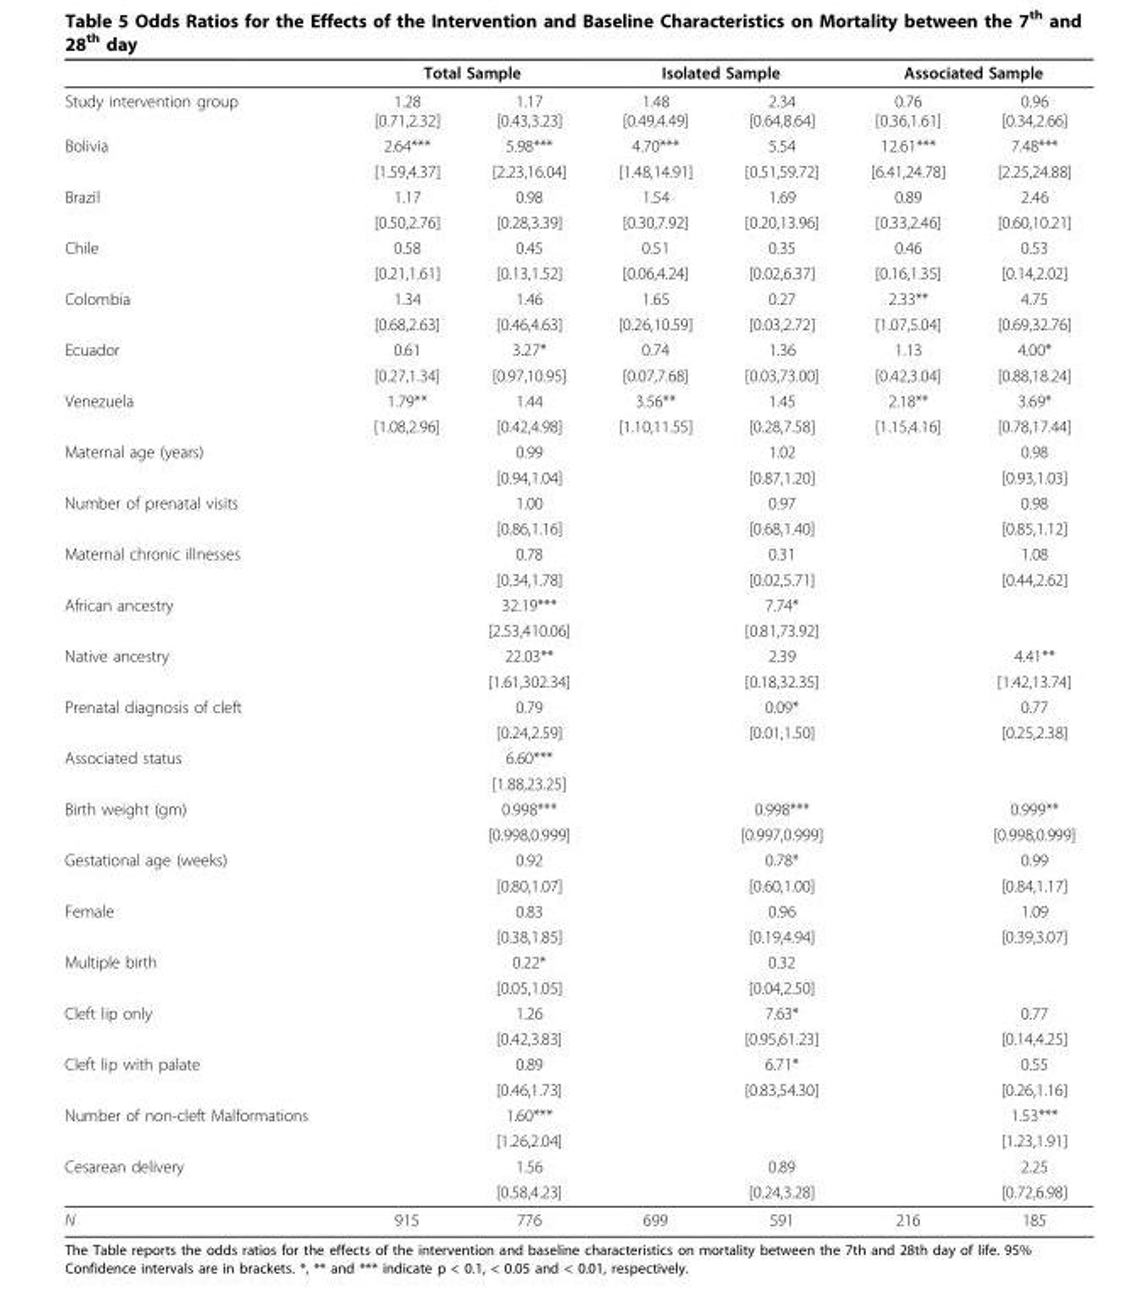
<table><thead><tr><td rowspan="2">Study intervention group</td><td colspan="2">Total Sample</td><td colspan="2">Isolated Sample</td><td colspan="2">Associated Sample</td></tr><tr><td>1.28 [0.71,2.32]</td><td>1.17 [0.43,3.23]</td><td>1.48 [0.49,4.49]</td><td>2.34 [0.64,8.64]</td><td>0.76 [0.36,1.61]</td><td>0.96 [0.34,2.66]</td></tr></thead><tbody><tr><td rowspan="2">Bolivia</td><td>2.64***</td><td>5.98***</td><td>4.70***</td><td>5.54</td><td>12.61***</td><td>7.48***</td></tr><tr><td>[1.59,4.37]</td><td>[2.23,16.04]</td><td>[1.48,14.91]</td><td>[0.51,59.72]</td><td>[6.41,24.78]</td><td>[2.25,24.88]</td></tr><tr><td rowspan="2">Brazil</td><td>1.17</td><td>0.98</td><td>1.54</td><td>1.69</td><td>0.89</td><td>2.46</td></tr><tr><td>[0.50,2.76]</td><td>[0.28,3.39]</td><td>[0.30,7.92]</td><td>[0.20,13.96]</td><td>[0.33,2.46]</td><td>[0.60,10.21]</td></tr><tr><td rowspan="2">Chile</td><td>0.58</td><td>0.45</td><td>0.51</td><td>0.35</td><td>0.46</td><td>0.53</td></tr><tr><td>[0.21,1.61]</td><td>[0.13,1.52]</td><td>[0.06,4.24]</td><td>[0.02,6.37]</td><td>[0.16,1.35]</td><td>[0.14,2.02]</td></tr><tr><td rowspan="2">Colombia</td><td>1.34</td><td>1.46</td><td>1.65</td><td>0.27</td><td>2.33**</td><td>4.75</td></tr><tr><td>[0.68,2.63]</td><td>[0.46,4.63]</td><td>[0.26,10.59]</td><td>[0.03,2.72]</td><td>[1.07,5.04]</td><td>[0.69,32.76]</td></tr><tr><td rowspan="2">Ecuador</td><td>0.61</td><td>3.27*</td><td>0.74</td><td>1.36</td><td>1.13</td><td>4.00*</td></tr><tr><td>[0.27,1.34]</td><td>[0.97,10.95]</td><td>[0.07,7.68]</td><td>[0.03,73.00]</td><td>[0.42,3.04]</td><td>[0.88,18.24]</td></tr><tr><td rowspan="2">Venezuela</td><td>1.79**</td><td>1.44</td><td>3.56**</td><td>1.45</td><td>2.18**</td><td>3.69*</td></tr><tr><td>[1.08,2.96]</td><td>[0.42,4.98]</td><td>[1.10,11.55]</td><td>[0.28,7.58]</td><td>[1.15,4.16]</td><td>[0.78,17.44]</td></tr><tr><td rowspan="2">Maternal age (years)</td><td></td><td>0.99</td><td></td><td>1.02</td><td></td><td>0.98</td></tr><tr><td></td><td>[0.94,1.04]</td><td></td><td>[0.87,1.20]</td><td></td><td>[0.93,1.03]</td></tr><tr><td rowspan="2">Number of prenatal visits</td><td></td><td>1.00</td><td></td><td>0.97</td><td></td><td>0.98</td></tr><tr><td></td><td>[0.86,1.16]</td><td></td><td>[0.68,1.40]</td><td></td><td>[0.85,1.12]</td></tr><tr><td rowspan="2">Maternal chronic illnesses</td><td></td><td>0.78</td><td></td><td>0.31</td><td></td><td>1.08</td></tr><tr><td></td><td>[0.34,1.78]</td><td></td><td>[0.02,5.71]</td><td></td><td>[0.44,2.62]</td></tr><tr><td rowspan="2">African ancestry</td><td></td><td>32.19***</td><td></td><td>7.74*</td><td></td><td></td></tr><tr><td></td><td>[2.53,410.06]</td><td></td><td>[0.81,73.92]</td><td></td><td></td></tr><tr><td rowspan="2">Native ancestry</td><td></td><td>22.03**</td><td></td><td>2.39</td><td></td><td>4.41**</td></tr><tr><td></td><td>[1.61,302.34]</td><td></td><td>[0.18,32.35]</td><td></td><td>[1.42,13.74]</td></tr><tr><td rowspan="2">Prenatal diagnosis of cleft</td><td></td><td>0.79</td><td></td><td>0.09*</td><td></td><td>0.77</td></tr><tr><td></td><td>[0.24,2.59]</td><td></td><td>[0.01,1.50]</td><td></td><td>[0.25,2.38]</td></tr><tr><td rowspan="2">Associated status</td><td></td><td>6.60***</td><td></td><td></td><td></td><td></td></tr><tr><td></td><td>[1.88,23.25]</td><td></td><td></td><td></td><td></td></tr><tr><td rowspan="2">Birth weight (gm)</td><td></td><td>0.998***</td><td></td><td>0.998***</td><td></td><td>0.999**</td></tr><tr><td></td><td>[0.998,0.999]</td><td></td><td>[0.997,0.999]</td><td></td><td>[0.998,0.999]</td></tr><tr><td rowspan="2">Gestational age (weeks)</td><td></td><td>0.92</td><td></td><td>0.78*</td><td></td><td>0.99</td></tr><tr><td></td><td>[0.80,1.07]</td><td></td><td>[0.60,1.00]</td><td></td><td>[0.84,1.17]</td></tr><tr><td rowspan="2">Female</td><td></td><td>0.83</td><td></td><td>0.96</td><td></td><td>1.09</td></tr><tr><td></td><td>[0.38,1.85]</td><td></td><td>[0.19,4.94]</td><td></td><td>[0.39,3.07]</td></tr><tr><td rowspan="2">Multiple birth</td><td></td><td>0.22*</td><td></td><td>0.32</td><td></td><td></td></tr><tr><td></td><td>[0.05,1.05]</td><td></td><td>[0.04,2.50]</td><td></td><td></td></tr><tr><td rowspan="2">Cleft lip only</td><td></td><td>1.26</td><td></td><td>7.63*</td><td></td><td>0.77</td></tr><tr><td></td><td>[0.42,3.83]</td><td></td><td>[0.95,61.23]</td><td></td><td>[0.14,4.25]</td></tr><tr><td rowspan="2">Cleft lip with palate</td><td></td><td>0.89</td><td></td><td>6.71*</td><td></td><td>0.55</td></tr><tr><td></td><td>[0.46,1.73]</td><td></td><td>[0.83,54.30]</td><td></td><td>[0.26,1.16]</td></tr><tr><td rowspan="2">Number of non-cleft Malformations</td><td></td><td>1.60***</td><td></td><td></td><td></td><td>1.53***</td></tr><tr><td></td><td>[1.26,2.04]</td><td></td><td></td><td></td><td>[1.23,1.91]</td></tr><tr><td rowspan="2">Cesarean delivery</td><td></td><td>1.56</td><td></td><td>0.89</td><td></td><td>2.25</td></tr><tr><td></td><td>[0.58,4.23]</td><td></td><td>[0.24,3.28]</td><td></td><td>[0.72,6.98]</td></tr><tr><td>N</td><td>915</td><td>776</td><td>699</td><td>591</td><td>216</td><td>185</td></tr></tbody></table>